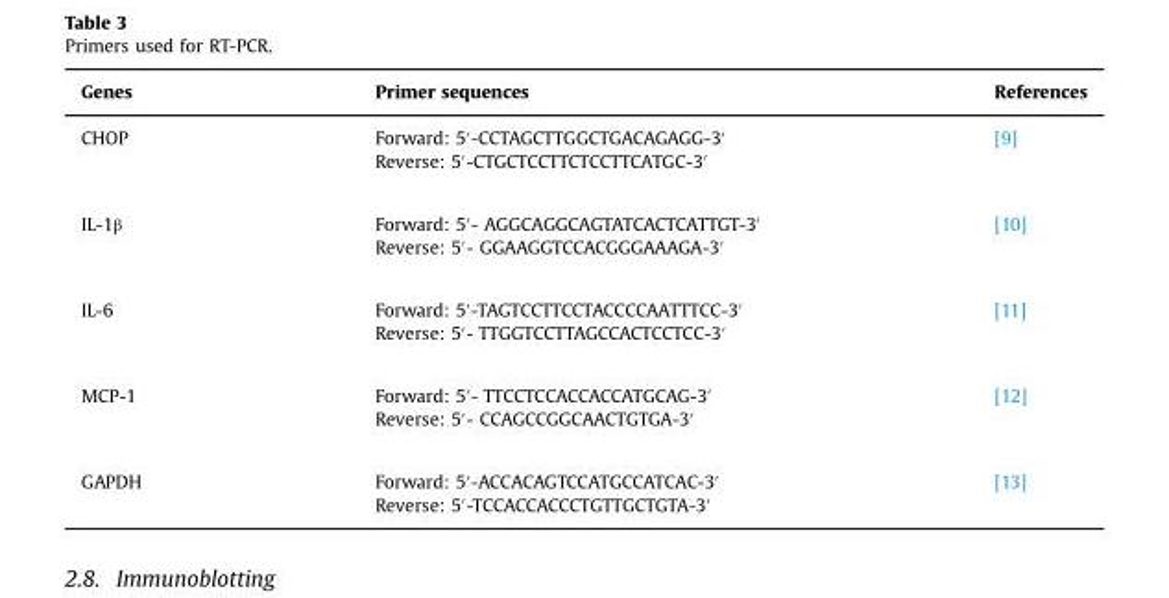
<table><thead><tr><td>Genes</td><td>Primer sequences</td><td>References</td></tr></thead><tbody><tr><td rowspan="2">CHOP</td><td>Forward: 5′-CCTAGCTTGGCTGACAGAGG-3′</td><td rowspan="2">[9]</td></tr><tr><td>Reverse: 5′-CTGCTCCTTCTCCTTCATGC-3′</td></tr><tr><td rowspan="2">IL-1β</td><td>Forward: 5′- AGGCAGGCAGTATCACTCATTGT-3′</td><td rowspan="2">[10]</td></tr><tr><td>Reverse: 5′- GGAAGGTCCACGGGAAAGA-3′</td></tr><tr><td rowspan="2">IL-6</td><td>Forward: 5′-TAGTCCTTCCTACCCCAATTTCC-3′</td><td rowspan="2">[11]</td></tr><tr><td>Reverse: 5′- TTGGTCCTTAGCCACTCCTCC-3′</td></tr><tr><td rowspan="2">MCP-1</td><td>Forward: 5′- TTCCTCCACCACCATGCAG-3′</td><td rowspan="2">[12]</td></tr><tr><td>Reverse: 5′- CCAGCCGGCAACTGTGA-3′</td></tr><tr><td rowspan="2">GAPDH</td><td>Forward: 5′-ACCACAGTCCATGCCATCAC-3′</td><td rowspan="2">[13]</td></tr><tr><td>Reverse: 5′-TCCACCACCCTGTTGCTGTA-3′</td></tr></tbody></table>